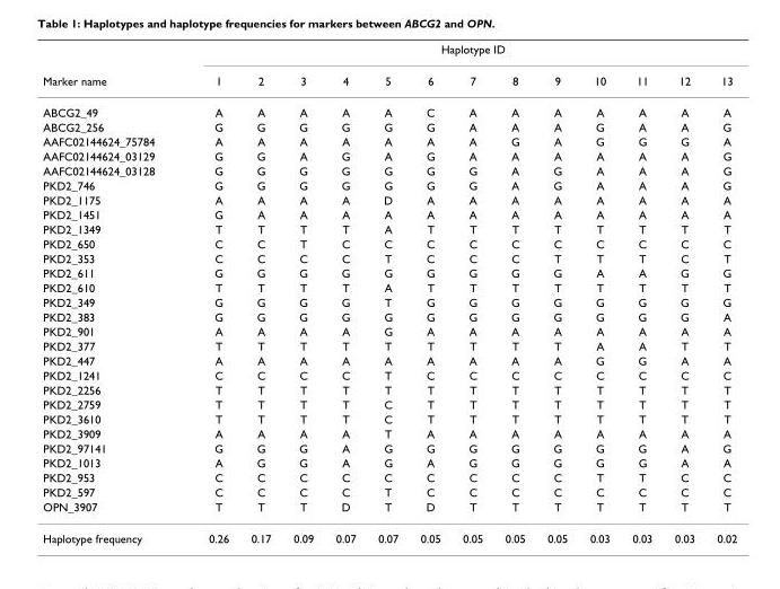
<table><thead><tr><td rowspan="2">Marker name</td><td colspan="13">Haplotype ID</td></tr><tr><td>1</td><td>2</td><td>3</td><td>4</td><td>5</td><td>6</td><td>7</td><td>8</td><td>9</td><td>10</td><td>11</td><td>12</td><td>13</td></tr></thead><tbody><tr><td>ABCG2_49</td><td>A</td><td>A</td><td>A</td><td>A</td><td>A</td><td>C</td><td>A</td><td>A</td><td>A</td><td>A</td><td>A</td><td>A</td><td>A</td></tr><tr><td>ABCG2_256</td><td>G</td><td>G</td><td>G</td><td>G</td><td>G</td><td>G</td><td>A</td><td>A</td><td>A</td><td>G</td><td>A</td><td>A</td><td>G</td></tr><tr><td>AAFC02144624_75784</td><td>A</td><td>A</td><td>A</td><td>A</td><td>A</td><td>A</td><td>A</td><td>G</td><td>A</td><td>G</td><td>G</td><td>G</td><td>A</td></tr><tr><td>AAFC02144624_03129</td><td>G</td><td>G</td><td>A</td><td>G</td><td>A</td><td>G</td><td>A</td><td>A</td><td>A</td><td>A</td><td>A</td><td>A</td><td>G</td></tr><tr><td>AAFC02144624_03128</td><td>G</td><td>G</td><td>G</td><td>G</td><td>G</td><td>G</td><td>G</td><td>A</td><td>G</td><td>A</td><td>A</td><td>A</td><td>G</td></tr><tr><td>PKD2_746</td><td>G</td><td>G</td><td>G</td><td>G</td><td>G</td><td>G</td><td>G</td><td>A</td><td>G</td><td>A</td><td>A</td><td>A</td><td>G</td></tr><tr><td>PKD2_1175</td><td>A</td><td>A</td><td>A</td><td>A</td><td>D</td><td>A</td><td>A</td><td>A</td><td>A</td><td>A</td><td>A</td><td>A</td><td>A</td></tr><tr><td>PKD2_1451</td><td>G</td><td>A</td><td>A</td><td>A</td><td>A</td><td>A</td><td>A</td><td>A</td><td>A</td><td>A</td><td>A</td><td>A</td><td>A</td></tr><tr><td>PKD2_1349</td><td>T</td><td>T</td><td>T</td><td>T</td><td>A</td><td>T</td><td>T</td><td>T</td><td>T</td><td>T</td><td>T</td><td>T</td><td>T</td></tr><tr><td>PKD2_650</td><td>C</td><td>C</td><td>T</td><td>C</td><td>C</td><td>C</td><td>C</td><td>C</td><td>C</td><td>C</td><td>C</td><td>C</td><td>C</td></tr><tr><td>PKD2_353</td><td>C</td><td>C</td><td>C</td><td>C</td><td>T</td><td>C</td><td>C</td><td>C</td><td>T</td><td>T</td><td>T</td><td>C</td><td>T</td></tr><tr><td>PKD2_611</td><td>G</td><td>G</td><td>G</td><td>G</td><td>G</td><td>G</td><td>G</td><td>G</td><td>G</td><td>A</td><td>A</td><td>G</td><td>G</td></tr><tr><td>PKD2_610</td><td>T</td><td>T</td><td>T</td><td>T</td><td>A</td><td>T</td><td>T</td><td>T</td><td>T</td><td>T</td><td>T</td><td>T</td><td>T</td></tr><tr><td>PKD2_349</td><td>G</td><td>G</td><td>G</td><td>G</td><td>T</td><td>G</td><td>G</td><td>G</td><td>G</td><td>G</td><td>G</td><td>G</td><td>G</td></tr><tr><td>PKD2_383</td><td>G</td><td>G</td><td>G</td><td>G</td><td>G</td><td>G</td><td>G</td><td>G</td><td>G</td><td>G</td><td>G</td><td>G</td><td>A</td></tr><tr><td>PKD2_901</td><td>A</td><td>A</td><td>A</td><td>A</td><td>G</td><td>A</td><td>A</td><td>A</td><td>A</td><td>A</td><td>A</td><td>A</td><td>A</td></tr><tr><td>PKD2_377</td><td>T</td><td>T</td><td>T</td><td>T</td><td>T</td><td>T</td><td>T</td><td>T</td><td>T</td><td>A</td><td>A</td><td>T</td><td>T</td></tr><tr><td>PKD2_447</td><td>A</td><td>A</td><td>A</td><td>A</td><td>A</td><td>A</td><td>A</td><td>A</td><td>A</td><td>G</td><td>G</td><td>A</td><td>A</td></tr><tr><td>PKD2_1241</td><td>C</td><td>C</td><td>C</td><td>C</td><td>T</td><td>C</td><td>C</td><td>C</td><td>C</td><td>C</td><td>C</td><td>C</td><td>C</td></tr><tr><td>PKD2_2256</td><td>T</td><td>T</td><td>T</td><td>T</td><td>T</td><td>T</td><td>T</td><td>T</td><td>T</td><td>T</td><td>T</td><td>T</td><td>T</td></tr><tr><td>PKD2_2759</td><td>T</td><td>T</td><td>T</td><td>T</td><td>C</td><td>T</td><td>T</td><td>T</td><td>T</td><td>T</td><td>T</td><td>T</td><td>T</td></tr><tr><td>PKD2_3610</td><td>T</td><td>T</td><td>T</td><td>T</td><td>C</td><td>T</td><td>T</td><td>T</td><td>T</td><td>T</td><td>T</td><td>T</td><td>T</td></tr><tr><td>PKD2_3909</td><td>A</td><td>A</td><td>A</td><td>A</td><td>T</td><td>A</td><td>A</td><td>A</td><td>A</td><td>A</td><td>A</td><td>A</td><td>A</td></tr><tr><td>PKD2_97141</td><td>G</td><td>G</td><td>G</td><td>A</td><td>G</td><td>G</td><td>G</td><td>G</td><td>G</td><td>G</td><td>G</td><td>A</td><td>G</td></tr><tr><td>PKD2_1013</td><td>A</td><td>G</td><td>G</td><td>A</td><td>G</td><td>A</td><td>G</td><td>G</td><td>G</td><td>G</td><td>G</td><td>A</td><td>A</td></tr><tr><td>PKD2_953</td><td>C</td><td>C</td><td>C</td><td>C</td><td>C</td><td>C</td><td>C</td><td>C</td><td>C</td><td>T</td><td>T</td><td>C</td><td>C</td></tr><tr><td>PKD2_597</td><td>C</td><td>C</td><td>C</td><td>C</td><td>T</td><td>C</td><td>C</td><td>C</td><td>C</td><td>C</td><td>C</td><td>C</td><td>C</td></tr><tr><td>OPN_3907</td><td>T</td><td>T</td><td>T</td><td>D</td><td>T</td><td>D</td><td>T</td><td>T</td><td>T</td><td>T</td><td>T</td><td>T</td><td>T</td></tr><tr><td>Haplotype frequency</td><td>0.26</td><td>0.17</td><td>0.09</td><td>0.07</td><td>0.07</td><td>0.05</td><td>0.05</td><td>0.05</td><td>0.05</td><td>0.03</td><td>0.03</td><td>0.03</td><td>0.02</td></tr></tbody></table>